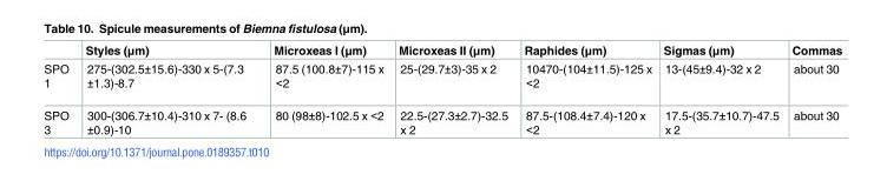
<table><thead><tr><td></td><td>Styles (μm)</td><td>Microxeas I (μm)</td><td>Microxeas II (μm)</td><td>Raphides (μm)</td><td>Sigmas (μm)</td><td>Commas</td></tr></thead><tbody><tr><td>SPO 1</td><td>275-(302.5±15.6)-330 x 5-(7.3 ±1.3)-8.7</td><td>87.5 (100.8±7)-115 x &lt;2</td><td>25-(29.7±3)-35 x 2</td><td>10470-(104±11.5)-125 x &lt;2</td><td>13-(45±9.4)-32 x 2</td><td>about 30</td></tr><tr><td>SPO 3</td><td>300-(306.7±10.4)-310 x 7- (8.6 ±0.9)-10</td><td>80 (98±8)-102.5 x &lt;2</td><td>22.5-(27.3±2.7)-32.5 x 2</td><td>87.5-(108.4±7.4)-120 x &lt;2</td><td>17.5-(35.7±10.7)-47.5 x 2</td><td>about 30</td></tr></tbody></table>